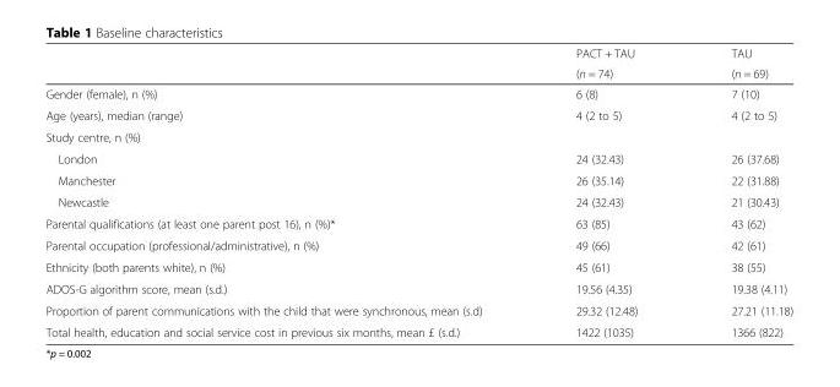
<table><thead><tr><td rowspan="2"></td><td rowspan="2">PACT + TAU (n = 74)</td><td rowspan="2">TAU (n = 69)</td></tr><tr></tr></thead><tbody><tr><td>Gender (female), n (%)</td><td>6 (8)</td><td>7 (10)</td></tr><tr><td>Age (years), median (range)</td><td>4 (2 to 5)</td><td>4 (2 to 5)</td></tr><tr><td colspan="3">Study centre, n (%)</td></tr><tr><td>London</td><td>24 (32.43)</td><td>26 (37.68)</td></tr><tr><td>Manchester</td><td>26 (35.14)</td><td>22 (31.88)</td></tr><tr><td>Newcastle</td><td>24 (32.43)</td><td>21 (30.43)</td></tr><tr><td>Parental qualifications (at least one parent post 16), n (%)*</td><td>63 (85)</td><td>43 (62)</td></tr><tr><td>Parental occupation (professional/administrative), n (%)</td><td>49 (66)</td><td>42 (61)</td></tr><tr><td>Ethnicity (both parents white), n (%)</td><td>45 (61)</td><td>38 (55)</td></tr><tr><td>ADOS-G algorithm score, mean (s.d.)</td><td>19.56 (4.35)</td><td>19.38 (4.11)</td></tr><tr><td>Proportion of parent communications with the child that were synchronous, mean (s.d)</td><td>29.32 (12.48)</td><td>27.21 (11.18)</td></tr><tr><td>Total health, education and social service cost in previous six months, mean £ (s.d.)</td><td>1422 (1035)</td><td>1366 (822)</td></tr></tbody></table>